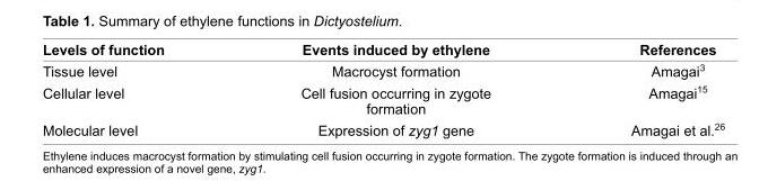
<table><thead><tr><td>Levels of function</td><td>Events induced by ethylene</td><td>References</td></tr></thead><tbody><tr><td>Tissue level</td><td>Macrocyst formation</td><td>Amagai<sup>3</sup></td></tr><tr><td>Cellular level</td><td>Cell fusion occurring in zygote formation</td><td>Amagai<sup>15</sup></td></tr><tr><td>Molecular level</td><td>Expression of zyg1 gene</td><td>Amagai et al.<sup>26</sup></td></tr></tbody></table>